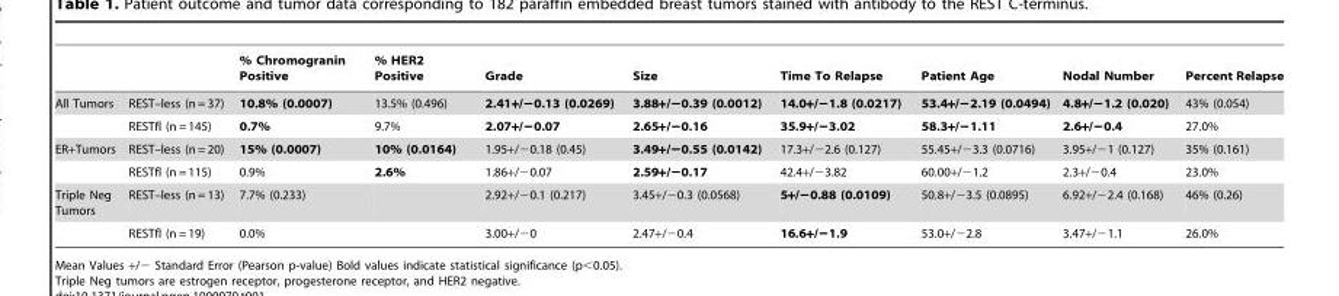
<table><thead><tr><td></td><td></td><td>% Chromogranin Positive</td><td>% HER2 Positive</td><td>Grade</td><td>Size</td><td>Time To Relapse</td><td>Patient Age</td><td>Nodal Number</td><td>Percent Relapse</td></tr></thead><tbody><tr><td rowspan="2">All Tumors</td><td>REST–less (n = 37)</td><td>10.8% (0.0007)</td><td>13.5% (0.496)</td><td>2.41+/−0.13 (0.0269)</td><td>3.88+/−0.39 (0.0012)</td><td>14.0+/−1.8 (0.0217)</td><td>53.4+/−2.19 (0.0494)</td><td>4.8+/−1.2 (0.020)</td><td>43% (0.054)</td></tr><tr><td>RESTfl (n = 145)</td><td>0.7%</td><td>9.7%</td><td>2.07+/−0.07</td><td>2.65+/−0.16</td><td>35.9+/−3.02</td><td>58.3+/−1.11</td><td>2.6+/−0.4</td><td>27.0%</td></tr><tr><td rowspan="2">ER+Tumors</td><td>REST–less (n = 20)</td><td>15% (0.0007)</td><td>10% (0.0164)</td><td>1.95+/−0.18 (0.45)</td><td>3.49+/−0.55 (0.0142)</td><td>17.3+/−2.6 (0.127)</td><td>55.45+/−3.3 (0.0716)</td><td>3.95+/−1 (0.127)</td><td>35% (0.161)</td></tr><tr><td>RESTfl (n = 115)</td><td>0.9%</td><td>2.6%</td><td>1.86+/−0.07</td><td>2.59+/−0.17</td><td>42.4+/−3.82</td><td>60.00+/−1.2</td><td>2.3+/−0.4</td><td>23.0%</td></tr><tr><td rowspan="2">Triple Neg Tumors</td><td>REST–less (n = 13)</td><td>7.7% (0.233)</td><td></td><td>2.92+/−0.1 (0.217)</td><td>3.45+/−0.3 (0.0568)</td><td>5+/−0.88 (0.0109)</td><td>50.8+/−3.5 (0.0895)</td><td>6.92+/−2.4 (0.168)</td><td>46% (0.26)</td></tr><tr><td>RESTfl (n = 19)</td><td>0.0%</td><td></td><td>3.00+/−0</td><td>2.47+/−0.4</td><td>16.6+/−1.9</td><td>53.0+/−2.8</td><td>3.47+/−1.1</td><td>26.0%</td></tr></tbody></table>